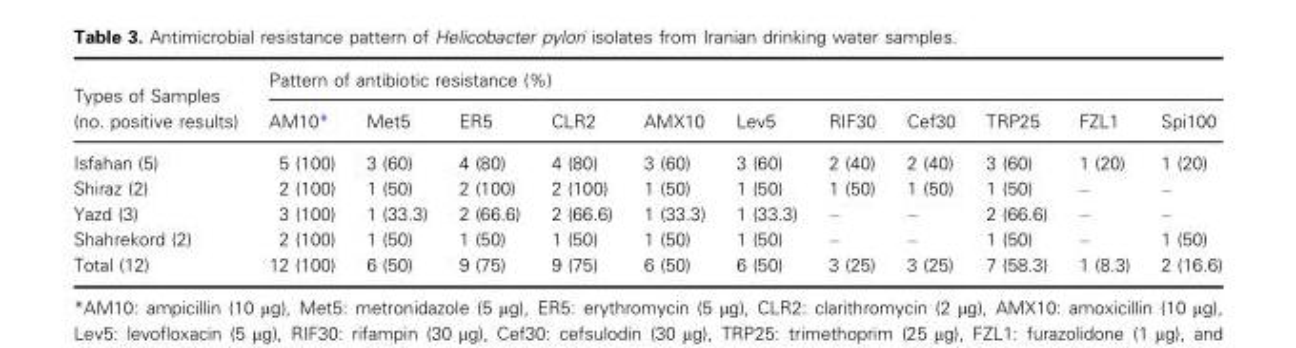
<table><thead><tr><td rowspan="2">Types of Samples (no. positive results)</td><td colspan="11">Pattern of antibiotic resistance (%)</td></tr><tr><td>AM10*</td><td>Met5</td><td>ER5</td><td>CLR2</td><td>AMX10</td><td>Lev5</td><td>RIF30</td><td>Cef30</td><td>TRP25</td><td>FZL1</td><td>Spi100</td></tr></thead><tbody><tr><td>Isfahan (5)</td><td>5 (100)</td><td>3 (60)</td><td>4 (80)</td><td>4 (80)</td><td>3 (60)</td><td>3 (60)</td><td>2 (40)</td><td>2 (40)</td><td>3 (60)</td><td>1 (20)</td><td>1 (20)</td></tr><tr><td>Shiraz (2)</td><td>2 (100)</td><td>1 (50)</td><td>2 (100)</td><td>2 (100)</td><td>1 (50)</td><td>1 (50)</td><td>1 (50)</td><td>1 (50)</td><td>1 (50)</td><td>–</td><td>–</td></tr><tr><td>Yazd (3)</td><td>3 (100)</td><td>1 (33.3)</td><td>2 (66.6)</td><td>2 (66.6)</td><td>1 (33.3)</td><td>1 (33.3)</td><td>–</td><td>–</td><td>2 (66.6)</td><td>–</td><td>–</td></tr><tr><td>Shahrekord (2)</td><td>2 (100)</td><td>1 (50)</td><td>1 (50)</td><td>1 (50)</td><td>1 (50)</td><td>1 (50)</td><td>–</td><td>–</td><td>1 (50)</td><td>–</td><td>1 (50)</td></tr><tr><td>Total (12)</td><td>12 (100)</td><td>6 (50)</td><td>9 (75)</td><td>9 (75)</td><td>6 (50)</td><td>6 (50)</td><td>3 (25)</td><td>3 (25)</td><td>7 (58.3)</td><td>1 (8.3)</td><td>2 (16.6)</td></tr></tbody></table>